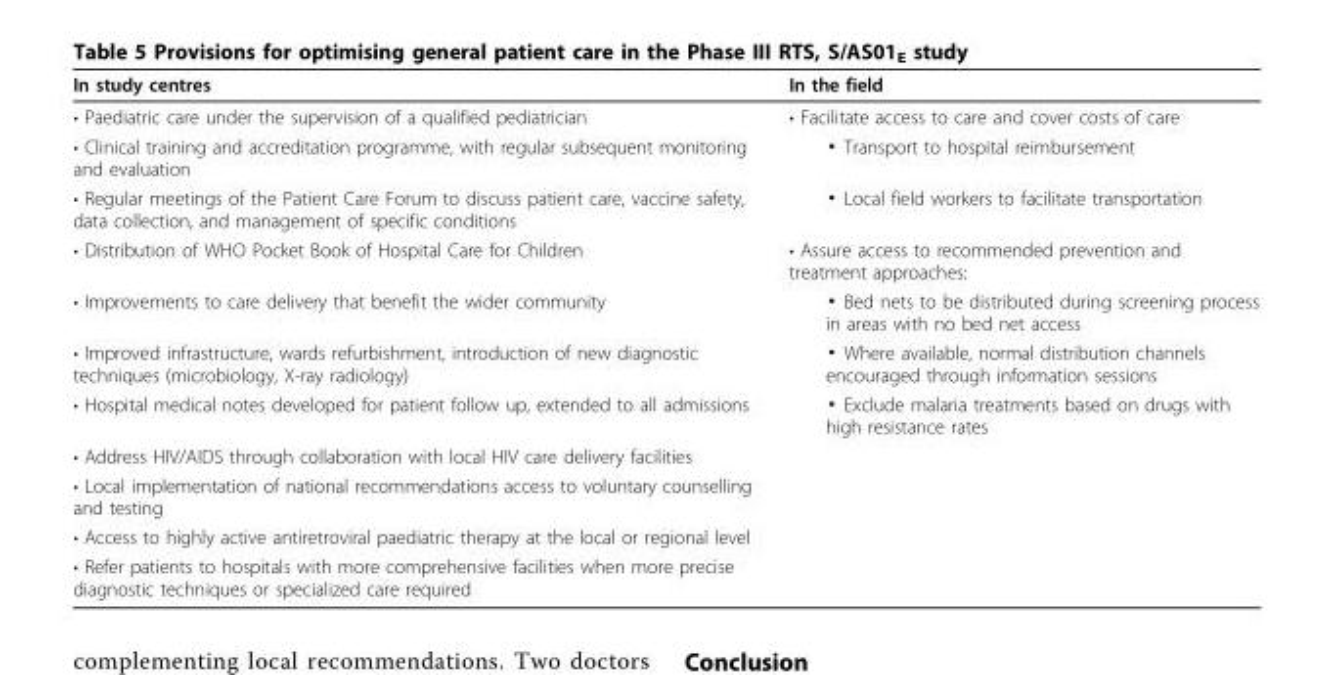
<table><thead><tr><td>In study centres</td><td>In the field</td></tr></thead><tbody><tr><td>• Paediatric care under the supervision of a qualified pediatrician</td><td>• Facilitate access to care and cover costs of care</td></tr><tr><td>• Clinical training and accreditation programme, with regular subsequent monitoring and evaluation</td><td>▪ Transport to hospital reimbursement</td></tr><tr><td>• Regular meetings of the Patient Care Forum to discuss patient care, vaccine safety, data collection, and management of specific conditions</td><td>▪ Local field workers to facilitate transportation</td></tr><tr><td>• Distribution of WHO Pocket Book of Hospital Care for Children</td><td>• Assure access to recommended prevention and treatment approaches:</td></tr><tr><td>• Improvements to care delivery that benefit the wider community</td><td>▪ Bed nets to be distributed during screening process in areas with no bed net access</td></tr><tr><td>• Improved infrastructure, wards refurbishment, introduction of new diagnostic techniques (microbiology, X-ray radiology)</td><td>▪ Where available, normal distribution channels encouraged through information sessions</td></tr><tr><td>• Hospital medical notes developed for patient follow up, extended to all admissions</td><td>▪ Exclude malaria treatments based on drugs with high resistance rates</td></tr><tr><td colspan="2">• Address HIV/AIDS through collaboration with local HIV care delivery facilities</td></tr><tr><td colspan="2">• Local implementation of national recommendations access to voluntary counselling and testing</td></tr><tr><td colspan="2">• Access to highly active antiretroviral paediatric therapy at the local or regional level</td></tr><tr><td>• Refer patients to hospitals with more comprehensive facilities when more precise diagnostic techniques or specialized care required</td><td></td></tr></tbody></table>